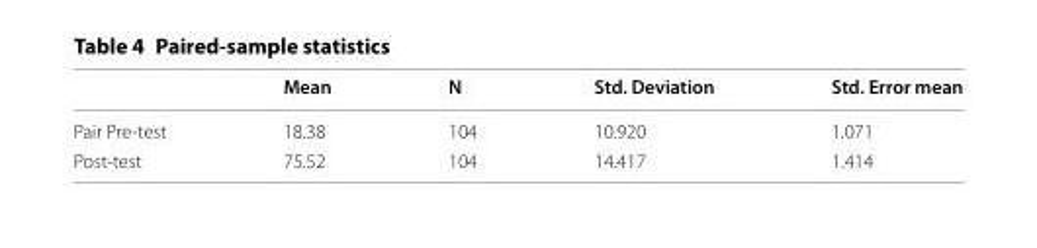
<table><thead><tr><td></td><td>Mean</td><td>N</td><td>Std. Deviation</td><td>Std. Error mean</td></tr></thead><tbody><tr><td>Pair Pre‑test</td><td>18.38</td><td>104</td><td>10.920</td><td>1.071</td></tr><tr><td>Post‑test</td><td>75.52</td><td>104</td><td>14.417</td><td>1.414</td></tr></tbody></table>